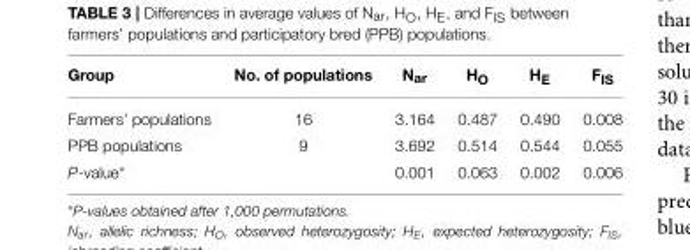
<table><thead><tr><td>Group</td><td>No. of populations</td><td>N<sub>ar</sub></td><td>H<sub>O</sub></td><td>H<sub>E</sub></td><td>F<sub>IS</sub></td></tr></thead><tbody><tr><td>Farmers’ populations</td><td>16</td><td>3.164</td><td>0.487</td><td>0.490</td><td>0.008</td></tr><tr><td>PPB populations</td><td>9</td><td>3.692</td><td>0.514</td><td>0.544</td><td>0.055</td></tr><tr><td>P-value*</td><td></td><td>0.001</td><td>0.063</td><td>0.002</td><td>0.006</td></tr></tbody></table>